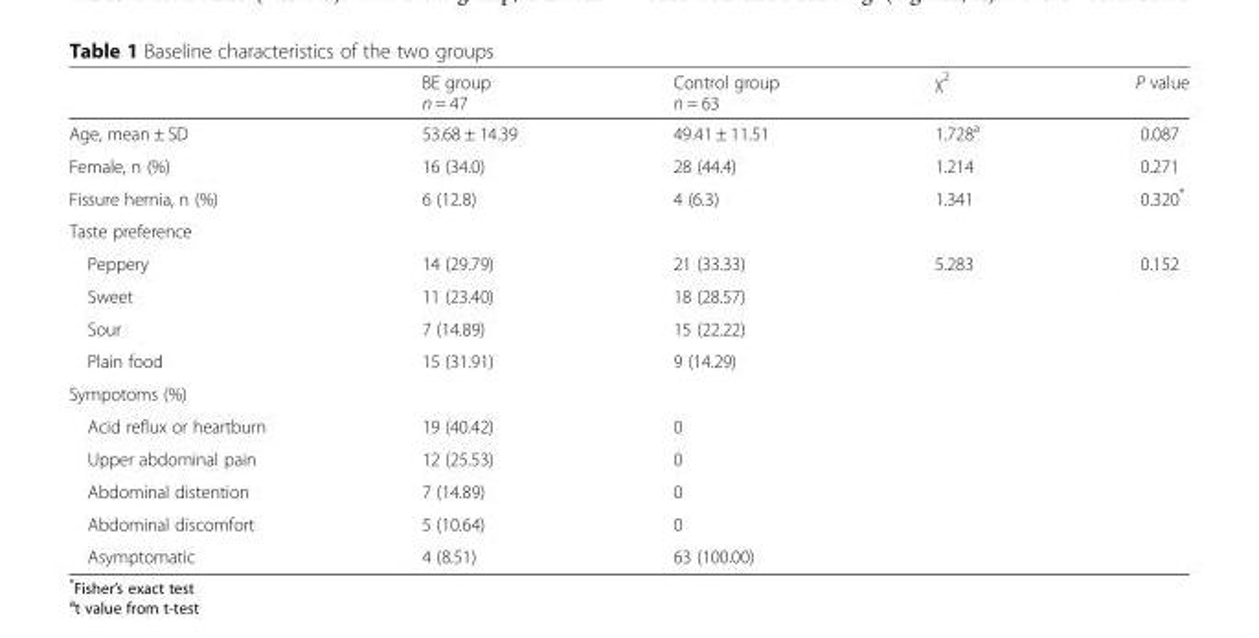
<table><thead><tr><td></td><td>BE group n = 47</td><td>Control group n = 63</td><td>χ<sup>2</sup></td><td>P value</td></tr></thead><tbody><tr><td>Age, mean ± SD</td><td>53.68 ± 14.39</td><td>49.41 ± 11.51</td><td>1.728<sup>a</sup></td><td>0.087</td></tr><tr><td>Female, n (%)</td><td>16 (34.0)</td><td>28 (44.4)</td><td>1.214</td><td>0.271</td></tr><tr><td>Fissure hernia, n (%)</td><td>6 (12.8)</td><td>4 (6.3)</td><td>1.341</td><td>0.320*</td></tr><tr><td colspan="5">Taste preference</td></tr><tr><td>Peppery</td><td>14 (29.79)</td><td>21 (33.33)</td><td>5.283</td><td>0.152</td></tr><tr><td>Sweet</td><td>11 (23.40)</td><td>18 (28.57)</td><td></td><td></td></tr><tr><td>Sour</td><td>7 (14.89)</td><td>15 (22.22)</td><td></td><td></td></tr><tr><td>Plain food</td><td>15 (31.91)</td><td>9 (14.29)</td><td></td><td></td></tr><tr><td colspan="5">Sympotoms (%)</td></tr><tr><td>Acid reflux or heartburn</td><td>19 (40.42)</td><td>0</td><td></td><td></td></tr><tr><td>Upper abdominal pain</td><td>12 (25.53)</td><td>0</td><td></td><td></td></tr><tr><td>Abdominal distention</td><td>7 (14.89)</td><td>0</td><td></td><td></td></tr><tr><td>Abdominal discomfort</td><td>5 (10.64)</td><td>0</td><td></td><td></td></tr><tr><td>Asymptomatic</td><td>4 (8.51)</td><td>63 (100.00)</td><td></td><td></td></tr></tbody></table>